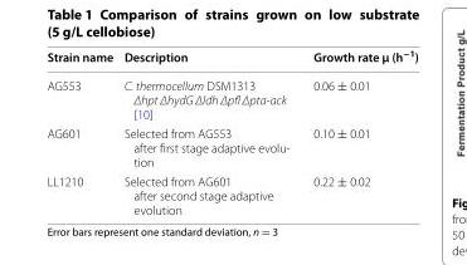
<table><thead><tr><td>Strain name</td><td>Description</td><td>Growth rate μ (h<sup>−1</sup>)</td></tr></thead><tbody><tr><td>AG553</td><td>C. thermocellum DSM1313 Δhpt ΔhydG Δldh Δpfl Δpta-ack [10]</td><td>0.06 ± 0.01</td></tr><tr><td>AG601</td><td>Selected from AG553 after first stage adaptive evolu- tion</td><td>0.10 ± 0.01</td></tr><tr><td>LL1210</td><td>Selected from AG601 after second stage adaptive evolution</td><td>0.22 ± 0.02</td></tr></tbody></table>